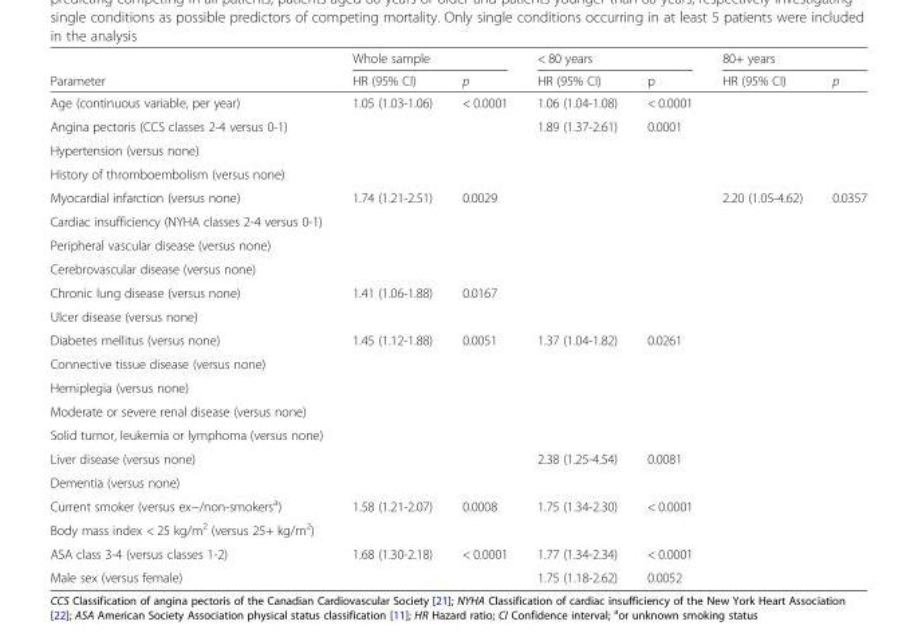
<table><thead><tr><td rowspan="2">Parameter</td><td colspan="2">Whole sample</td><td colspan="2">&lt; 80 years</td><td colspan="2">80+ years</td></tr><tr><td>HR (95% CI)</td><td>p</td><td>HR (95% CI)</td><td>p</td><td>HR (95% CI)</td><td>p</td></tr></thead><tbody><tr><td>Age (continuous variable, per year)</td><td>1.05 (1.03-1.06)</td><td>&lt; 0.0001</td><td>1.06 (1.04-1.08)</td><td>&lt; 0.0001</td><td></td><td></td></tr><tr><td>Angina pectoris (CCS classes 2-4 versus 0-1)</td><td></td><td></td><td>1.89 (1.37-2.61)</td><td>0.0001</td><td></td><td></td></tr><tr><td colspan="7">Hypertension (versus none)</td></tr><tr><td colspan="7">History of thromboembolism (versus none)</td></tr><tr><td>Myocardial infarction (versus none)</td><td>1.74 (1.21-2.51)</td><td>0.0029</td><td></td><td></td><td>2.20 (1.05-4.62)</td><td>0.0357</td></tr><tr><td colspan="7">Cardiac insufficiency (NYHA classes 2-4 versus 0-1)</td></tr><tr><td colspan="7">Peripheral vascular disease (versus none)</td></tr><tr><td colspan="7">Cerebrovascular disease (versus none)</td></tr><tr><td>Chronic lung disease (versus none)</td><td>1.41 (1.06-1.88)</td><td>0.0167</td><td></td><td></td><td></td><td></td></tr><tr><td colspan="7">Ulcer disease (versus none)</td></tr><tr><td>Diabetes mellitus (versus none)</td><td>1.45 (1.12-1.88)</td><td>0.0051</td><td>1.37 (1.04-1.82)</td><td>0.0261</td><td></td><td></td></tr><tr><td colspan="7">Connective tissue disease (versus none)</td></tr><tr><td colspan="7">Hemiplegia (versus none)</td></tr><tr><td colspan="7">Moderate or severe renal disease (versus none)</td></tr><tr><td colspan="7">Solid tumor, leukemia or lymphoma (versus none)</td></tr><tr><td>Liver disease (versus none)</td><td></td><td></td><td>2.38 (1.25-4.54)</td><td>0.0081</td><td></td><td></td></tr><tr><td colspan="7">Dementia (versus none)</td></tr><tr><td>Current smoker (versus ex−/non-smokers<sup>a</sup>)</td><td>1.58 (1.21-2.07)</td><td>0.0008</td><td>1.75 (1.34-2.30)</td><td>&lt; 0.0001</td><td></td><td></td></tr><tr><td colspan="7">Body mass index &lt; 25 kg/m<sup>2</sup> (versus 25+ kg/m<sup>2</sup>)</td></tr><tr><td>ASA class 3-4 (versus classes 1-2)</td><td>1.68 (1.30-2.18)</td><td>&lt; 0.0001</td><td>1.77 (1.34-2.34)</td><td>&lt; 0.0001</td><td></td><td></td></tr><tr><td>Male sex (versus female)</td><td></td><td></td><td>1.75 (1.18-2.62)</td><td>0.0052</td><td></td><td></td></tr></tbody></table>